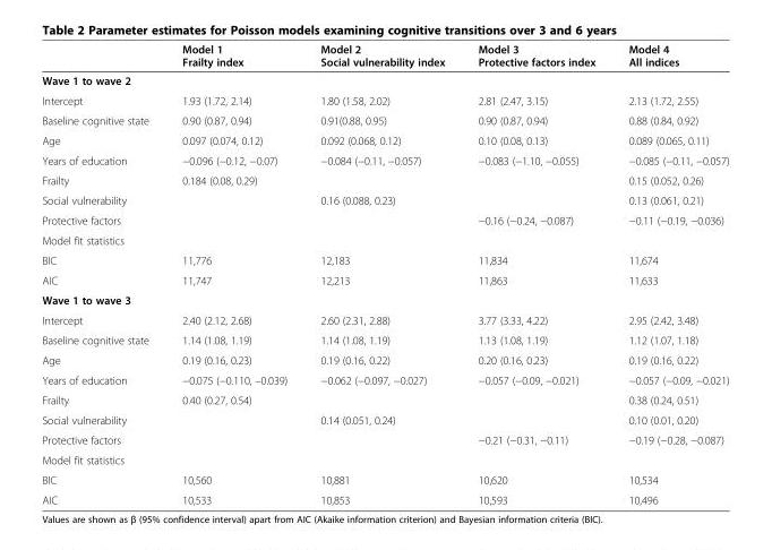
<table><thead><tr><td></td><td>Model 1 Frailty index</td><td>Model 2 Social vulnerability index</td><td>Model 3 Protective factors index</td><td>Model 4 All indices</td></tr></thead><tbody><tr><td colspan="5">Wave 1 to wave 2</td></tr><tr><td>Intercept</td><td>1.93 (1.72, 2.14)</td><td>1.80 (1.58, 2.02)</td><td>2.81 (2.47, 3.15)</td><td>2.13 (1.72, 2.55)</td></tr><tr><td>Baseline cognitive state</td><td>0.90 (0.87, 0.94)</td><td>0.91(0.88, 0.95)</td><td>0.90 (0.87, 0.94)</td><td>0.88 (0.84, 0.92)</td></tr><tr><td>Age</td><td>0.097 (0.074, 0.12)</td><td>0.092 (0.068, 0.12)</td><td>0.10 (0.08, 0.13)</td><td>0.089 (0.065, 0.11)</td></tr><tr><td>Years of education</td><td>−0.096 (−0.12, −0.07)</td><td>−0.084 (−0.11, −0.057)</td><td>−0.083 (−1.10, −0.055)</td><td>−0.085 (−0.11, −0.057)</td></tr><tr><td>Frailty</td><td>0.184 (0.08, 0.29)</td><td></td><td></td><td>0.15 (0.052, 0.26)</td></tr><tr><td>Social vulnerability</td><td></td><td>0.16 (0.088, 0.23)</td><td></td><td>0.13 (0.061, 0.21)</td></tr><tr><td>Protective factors</td><td></td><td></td><td>−0.16 (−0.24, −0.087)</td><td>−0.11 (−0.19, −0.036)</td></tr><tr><td colspan="5">Model fit statistics</td></tr><tr><td>BIC</td><td>11,776</td><td>12,183</td><td>11,834</td><td>11,674</td></tr><tr><td>AIC</td><td>11,747</td><td>12,213</td><td>11,863</td><td>11,633</td></tr><tr><td colspan="5">Wave 1 to wave 3</td></tr><tr><td>Intercept</td><td>2.40 (2.12, 2.68)</td><td>2.60 (2.31, 2.88)</td><td>3.77 (3.33, 4.22)</td><td>2.95 (2.42, 3.48)</td></tr><tr><td>Baseline cognitive state</td><td>1.14 (1.08, 1.19)</td><td>1.14 (1.08, 1.19)</td><td>1.13 (1.08, 1.19)</td><td>1.12 (1.07, 1.18)</td></tr><tr><td>Age</td><td>0.19 (0.16, 0.23)</td><td>0.19 (0.16, 0.22)</td><td>0.20 (0.16, 0.23)</td><td>0.19 (0.16, 0.22)</td></tr><tr><td>Years of education</td><td>−0.075 (−0.110, –0.039)</td><td>−0.062 (−0.097, −0.027)</td><td>−0.057 (−0.09, −0.021)</td><td>−0.057 (−0.09, −0.021)</td></tr><tr><td>Frailty</td><td>0.40 (0.27, 0.54)</td><td></td><td></td><td>0.38 (0.24, 0.51)</td></tr><tr><td>Social vulnerability</td><td></td><td>0.14 (0.051, 0.24)</td><td></td><td>0.10 (0.01, 0.20)</td></tr><tr><td>Protective factors</td><td></td><td></td><td>−0.21 (−0.31, −0.11)</td><td>−0.19 (−0.28, −0.087)</td></tr><tr><td colspan="5">Model fit statistics</td></tr><tr><td>BIC</td><td>10,560</td><td>10,881</td><td>10,620</td><td>10,534</td></tr><tr><td>AIC</td><td>10,533</td><td>10,853</td><td>10,593</td><td>10,496</td></tr></tbody></table>